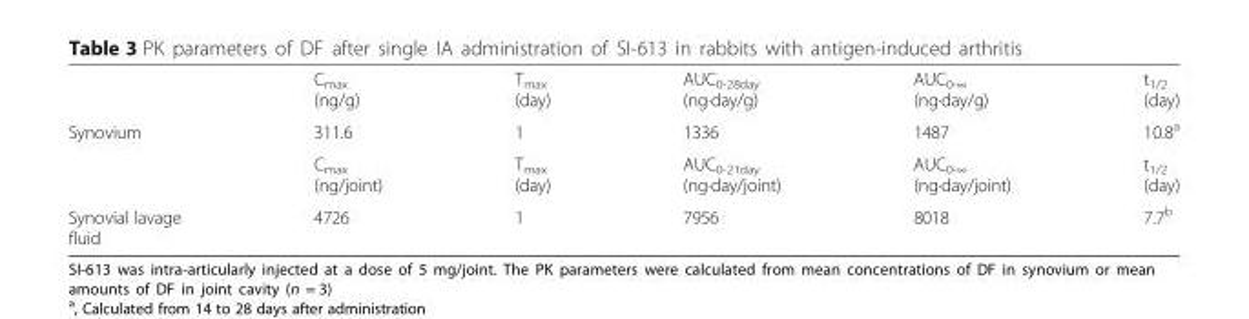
<table><thead><tr><td></td><td>C<sub>max</sub> (ng/g)</td><td>T<sub>max</sub> (day)</td><td>AUC<sub>0-28day</sub> (ng∙day/g)</td><td>AUC<sub>0-∞</sub> (ng∙day/g)</td><td>t<sub>1/2</sub> (day)</td></tr></thead><tbody><tr><td rowspan="2">Synovium</td><td>311.6</td><td>1</td><td>1336</td><td>1487</td><td>10.8<sup>a</sup></td></tr><tr><td>C<sub>max</sub> (ng/joint)</td><td>T<sub>max</sub> (day)</td><td>AUC<sub>0-21day</sub> (ng∙day/joint)</td><td>AUC<sub>0-∞</sub> (ng∙day/joint)</td><td>t<sub>1/2</sub> (day)</td></tr><tr><td>Synovial lavage fluid</td><td>4726</td><td>1</td><td>7956</td><td>8018</td><td>7.7<sup>b</sup></td></tr></tbody></table>